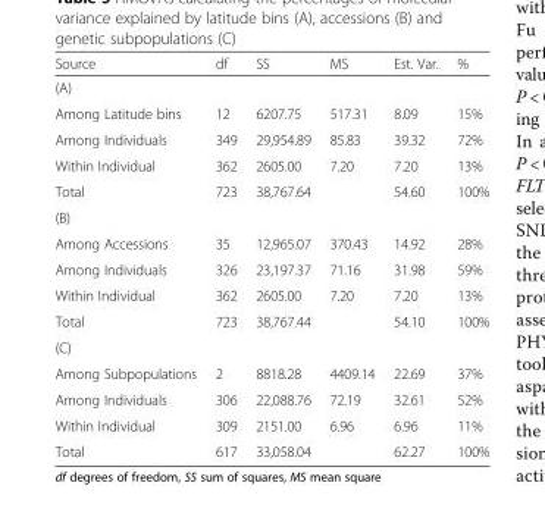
<table><thead><tr><td>Source</td><td>df</td><td>SS</td><td>MS</td><td>Est. Var.</td><td>%</td></tr></thead><tbody><tr><td colspan="6">(A)</td></tr><tr><td>Among Latitude bins</td><td>12</td><td>6207.75</td><td>517.31</td><td>8.09</td><td>15%</td></tr><tr><td>Among Individuals</td><td>349</td><td>29,954.89</td><td>85.83</td><td>39.32</td><td>72%</td></tr><tr><td>Within Individual</td><td>362</td><td>2605.00</td><td>7.20</td><td>7.20</td><td>13%</td></tr><tr><td>Total</td><td>723</td><td>38,767.64</td><td></td><td>54.60</td><td>100%</td></tr><tr><td colspan="6">(B)</td></tr><tr><td>Among Accessions</td><td>35</td><td>12,965.07</td><td>370.43</td><td>14.92</td><td>28%</td></tr><tr><td>Among Individuals</td><td>326</td><td>23,197.37</td><td>71.16</td><td>31.98</td><td>59%</td></tr><tr><td>Within Individual</td><td>362</td><td>2605.00</td><td>7.20</td><td>7.20</td><td>13%</td></tr><tr><td>Total</td><td>723</td><td>38,767.44</td><td></td><td>54.10</td><td>100%</td></tr><tr><td colspan="6">(C)</td></tr><tr><td>Among Subpopulations</td><td>2</td><td>8818.28</td><td>4409.14</td><td>22.69</td><td>37%</td></tr><tr><td>Among Individuals</td><td>306</td><td>22,088.76</td><td>72.19</td><td>32.61</td><td>52%</td></tr><tr><td>Within Individual</td><td>309</td><td>2151.00</td><td>6.96</td><td>6.96</td><td>11%</td></tr><tr><td>Total</td><td>617</td><td>33,058.04</td><td></td><td>62.27</td><td>100%</td></tr></tbody></table>